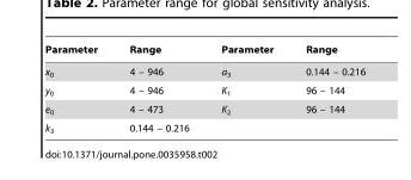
<table><thead><tr><td>Parameter</td><td>Range</td><td>Parameter</td><td>Range</td></tr></thead><tbody><tr><td>x<sub>0</sub></td><td>4 – 946</td><td>a<sub>3</sub></td><td>0.144 – 0.216</td></tr><tr><td>y<sub>0</sub></td><td>4 – 946</td><td>K<sub>1</sub></td><td>96 – 144</td></tr><tr><td>e<sub>0</sub></td><td>4 – 473</td><td>K<sub>2</sub></td><td>96 – 144</td></tr><tr><td>k<sub>3</sub></td><td>0.144 – 0.216</td><td></td><td></td></tr></tbody></table>